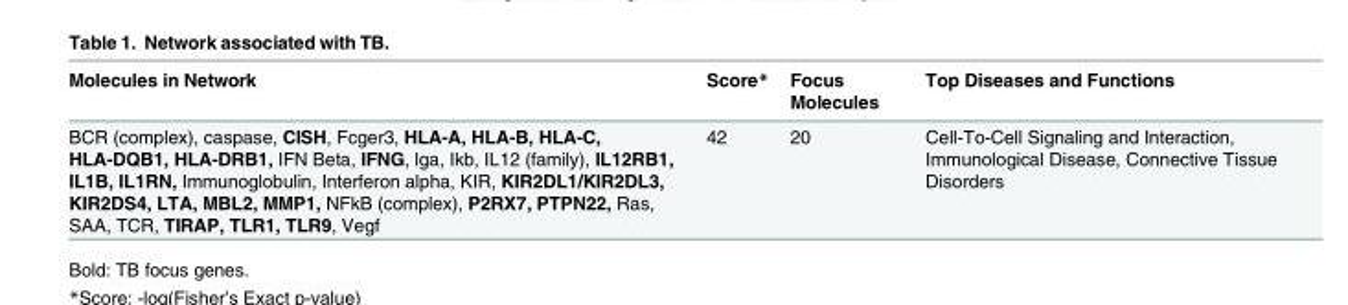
<table><thead><tr><td>Molecules in Network</td><td>Score*</td><td>Focus Molecules</td><td>Top Diseases and Functions</td></tr></thead><tbody><tr><td>BCR (complex), caspase, CISH, Fcger3, HLA-A, HLA-B, HLA-C, HLA-DQB1, HLA-DRB1, IFN Beta, IFNG, lga, Ikb, IL12 (family), IL12RB1, IL1B, IL1RN, Immunoglobulin, Interferon alpha, KIR, KIR2DL1/KIR2DL3, KIR2DS4, LTA, MBL2, MMP1, NFkB (complex), P2RX7, PTPN22, Ras, SAA, TCR, TIRAP, TLR1, TLR9, Vegf</td><td>42</td><td>20</td><td>Cell-To-Cell Signaling and Interaction, Immunological Disease, Connective Tissue Disorders</td></tr></tbody></table>